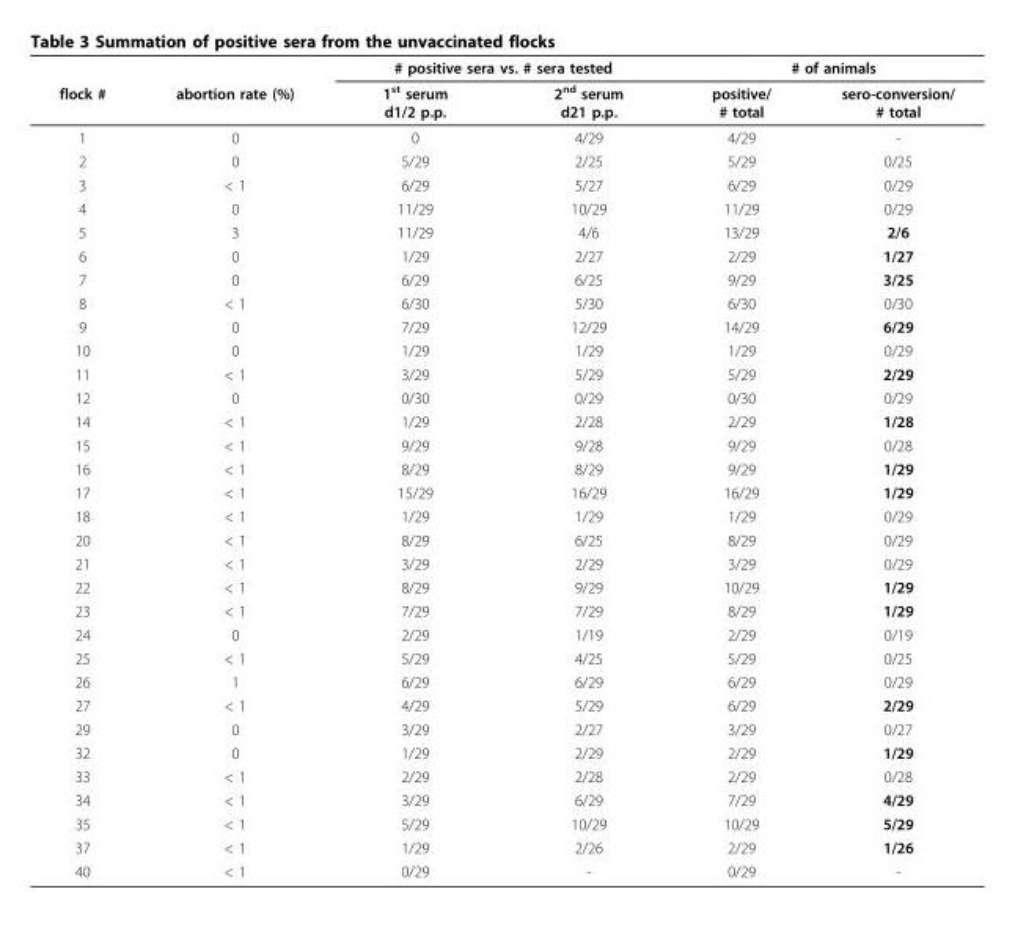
<table><thead><tr><td rowspan="2">flock #</td><td rowspan="2">abortion rate (%)</td><td colspan="2"># positive sera vs. # sera tested</td><td colspan="2"># of animals</td></tr><tr><td>1<sup>st</sup> serum d1/2 p.p.</td><td>2<sup>nd</sup> serum d21 p.p.</td><td>positive/ # total</td><td>sero-conversion/ # total</td></tr></thead><tbody><tr><td>1</td><td>0</td><td>0</td><td>4/29</td><td>4/29</td><td>-</td></tr><tr><td>2</td><td>0</td><td>5/29</td><td>2/25</td><td>5/29</td><td>0/25</td></tr><tr><td>3</td><td>&lt; 1</td><td>6/29</td><td>5/27</td><td>6/29</td><td>0/29</td></tr><tr><td>4</td><td>0</td><td>11/29</td><td>10/29</td><td>11/29</td><td>0/29</td></tr><tr><td>5</td><td>3</td><td>11/29</td><td>4/6</td><td>13/29</td><td>2/6</td></tr><tr><td>6</td><td>0</td><td>1/29</td><td>2/27</td><td>2/29</td><td>1/27</td></tr><tr><td>7</td><td>0</td><td>6/29</td><td>6/25</td><td>9/29</td><td>3/25</td></tr><tr><td>8</td><td>&lt; 1</td><td>6/30</td><td>5/30</td><td>6/30</td><td>0/30</td></tr><tr><td>9</td><td>0</td><td>7/29</td><td>12/29</td><td>14/29</td><td>6/29</td></tr><tr><td>10</td><td>0</td><td>1/29</td><td>1/29</td><td>1/29</td><td>0/29</td></tr><tr><td>11</td><td>&lt; 1</td><td>3/29</td><td>5/29</td><td>5/29</td><td>2/29</td></tr><tr><td>12</td><td>0</td><td>0/30</td><td>0/29</td><td>0/30</td><td>0/29</td></tr><tr><td>14</td><td>&lt; 1</td><td>1/29</td><td>2/28</td><td>2/29</td><td>1/28</td></tr><tr><td>15</td><td>&lt; 1</td><td>9/29</td><td>9/28</td><td>9/29</td><td>0/28</td></tr><tr><td>16</td><td>&lt; 1</td><td>8/29</td><td>8/29</td><td>9/29</td><td>1/29</td></tr><tr><td>17</td><td>&lt; 1</td><td>15/29</td><td>16/29</td><td>16/29</td><td>1/29</td></tr><tr><td>18</td><td>&lt; 1</td><td>1/29</td><td>1/29</td><td>1/29</td><td>0/29</td></tr><tr><td>20</td><td>&lt; 1</td><td>8/29</td><td>6/25</td><td>8/29</td><td>0/29</td></tr><tr><td>21</td><td>&lt; 1</td><td>3/29</td><td>2/29</td><td>3/29</td><td>0/29</td></tr><tr><td>22</td><td>&lt; 1</td><td>8/29</td><td>9/29</td><td>10/29</td><td>1/29</td></tr><tr><td>23</td><td>&lt; 1</td><td>7/29</td><td>7/29</td><td>8/29</td><td>1/29</td></tr><tr><td>24</td><td>0</td><td>2/29</td><td>1/19</td><td>2/29</td><td>0/19</td></tr><tr><td>25</td><td>&lt; 1</td><td>5/29</td><td>4/25</td><td>5/29</td><td>0/25</td></tr><tr><td>26</td><td>1</td><td>6/29</td><td>6/29</td><td>6/29</td><td>0/29</td></tr><tr><td>27</td><td>&lt; 1</td><td>4/29</td><td>5/29</td><td>6/29</td><td>2/29</td></tr><tr><td>29</td><td>0</td><td>3/29</td><td>2/27</td><td>3/29</td><td>0/27</td></tr><tr><td>32</td><td>0</td><td>1/29</td><td>2/29</td><td>2/29</td><td>1/29</td></tr><tr><td>33</td><td>&lt; 1</td><td>2/29</td><td>2/28</td><td>2/29</td><td>0/28</td></tr><tr><td>34</td><td>&lt; 1</td><td>3/29</td><td>6/29</td><td>7/29</td><td>4/29</td></tr><tr><td>35</td><td>&lt; 1</td><td>5/29</td><td>10/29</td><td>10/29</td><td>5/29</td></tr><tr><td>37</td><td>&lt; 1</td><td>1/29</td><td>2/26</td><td>2/29</td><td>1/26</td></tr><tr><td>40</td><td>&lt; 1</td><td>0/29</td><td>-</td><td>0/29</td><td>-</td></tr></tbody></table>